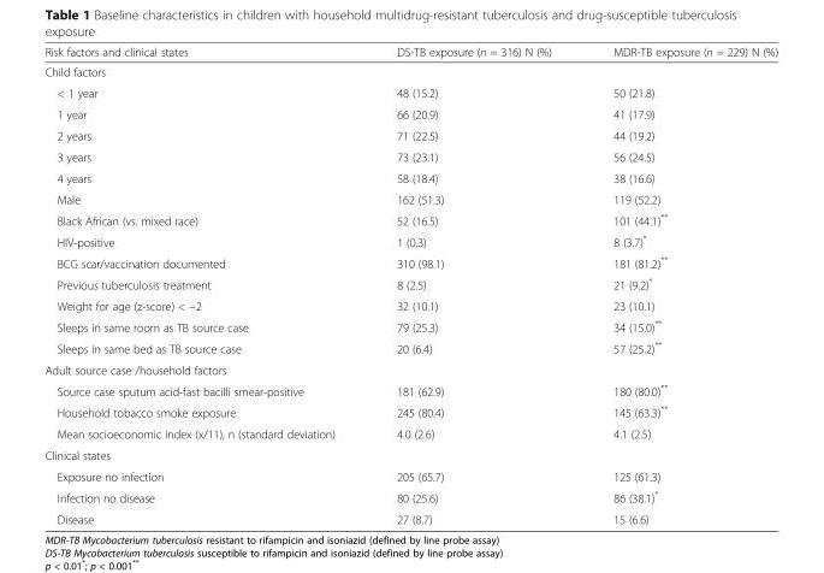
<table><thead><tr><td>Risk factors and clinical states</td><td>DS-TB exposure (n = 316) N (%)</td><td>MDR-TB exposure (n = 229) N (%)</td></tr></thead><tbody><tr><td colspan="3">Child factors</td></tr><tr><td>&lt; 1 year</td><td>48 (15.2)</td><td>50 (21.8)</td></tr><tr><td>1 year</td><td>66 (20.9)</td><td>41 (17.9)</td></tr><tr><td>2 years</td><td>71 (22.5)</td><td>44 (19.2)</td></tr><tr><td>3 years</td><td>73 (23.1)</td><td>56 (24.5)</td></tr><tr><td>4 years</td><td>58 (18.4)</td><td>38 (16.6)</td></tr><tr><td>Male</td><td>162 (51.3)</td><td>119 (52.2)</td></tr><tr><td>Black African (vs. mixed race)</td><td>52 (16.5)</td><td>101 (44.1)**</td></tr><tr><td>HIV-positive</td><td>1 (0.3)</td><td>8 (3.7)*</td></tr><tr><td>BCG scar/vaccination documented</td><td>310 (98.1)</td><td>181 (81.2)**</td></tr><tr><td>Previous tuberculosis treatment</td><td>8 (2.5)</td><td>21 (9.2)*</td></tr><tr><td>Weight for age (z-score) &lt; −2</td><td>32 (10.1)</td><td>23 (10.1)</td></tr><tr><td>Sleeps in same room as TB source case</td><td>79 (25.3)</td><td>34 (15.0)**</td></tr><tr><td>Sleeps in same bed as TB source case</td><td>20 (6.4)</td><td>57 (25.2)**</td></tr><tr><td colspan="3">Adult source case /household factors</td></tr><tr><td>Source case sputum acid-fast bacilli smear-positive</td><td>181 (62.9)</td><td>180 (80.0)**</td></tr><tr><td>Household tobacco smoke exposure</td><td>245 (80.4)</td><td>145 (63.3)**</td></tr><tr><td>Mean socioeconomic index (x/11), n (standard deviation)</td><td>4.0 (2.6)</td><td>4.1 (2.5)</td></tr><tr><td colspan="3">Clinical states</td></tr><tr><td>Exposure no infection</td><td>205 (65.7)</td><td>125 (61.3)</td></tr><tr><td>Infection no disease</td><td>80 (25.6)</td><td>86 (38.1)*</td></tr><tr><td>Disease</td><td>27 (8.7)</td><td>15 (6.6)</td></tr></tbody></table>